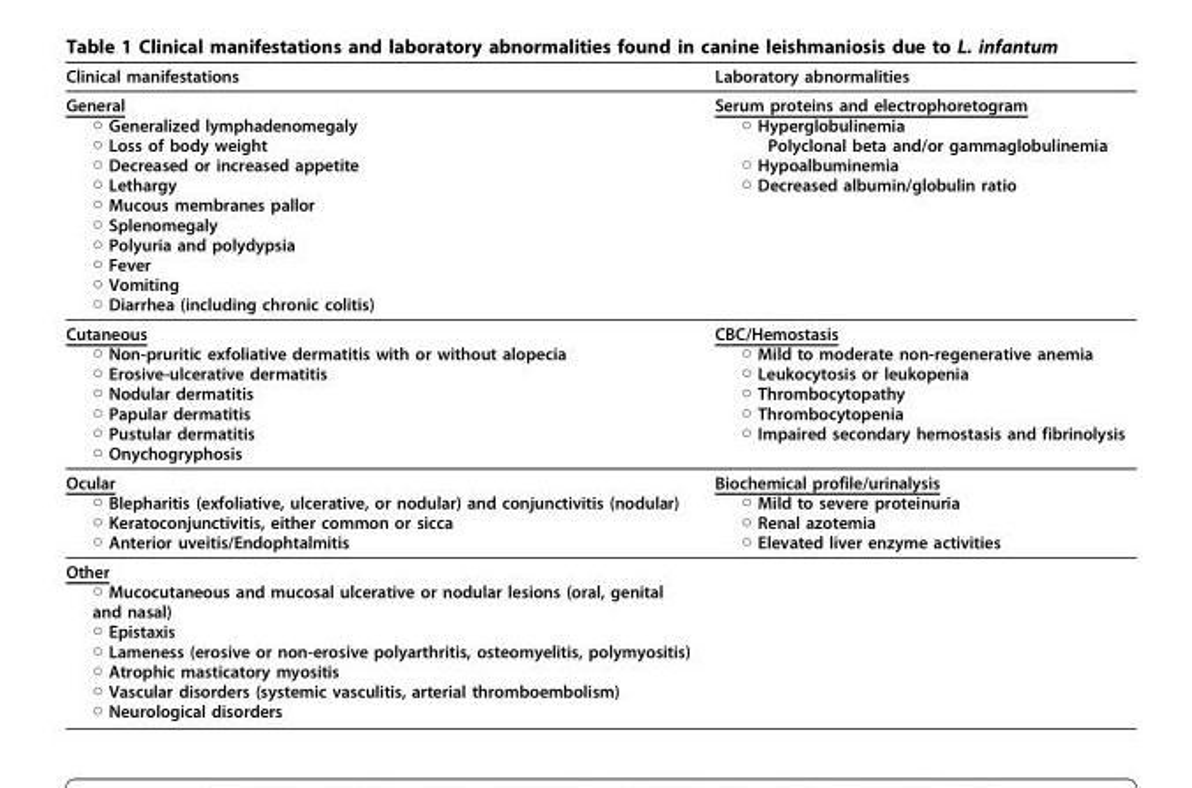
<table><thead><tr><td>Clinical manifestations</td><td>Laboratory abnormalities</td></tr></thead><tbody><tr><td>General ○ Generalized lymphadenomegaly ○ Loss of body weight ○ Decreased or increased appetite ○ Lethargy ○ Mucous membranes pallor ○ Splenomegaly ○ Polyuria and polydypsia ○ Fever ○ Vomiting ○ Diarrhea (including chronic colitis)</td><td>Serum proteins and electrophoretogram ○ Hyperglobulinemia Polyclonal beta and/or gammaglobulinemia ○ Hypoalbuminemia ○ Decreased albumin/globulin ratio</td></tr><tr><td>Cutaneous ○ Non-pruritic exfoliative dermatitis with or without alopecia ○ Erosive-ulcerative dermatitis ○ Nodular dermatitis ○ Papular dermatitis ○ Pustular dermatitis ○ Onychogryphosis</td><td>CBC/Hemostasis ○ Mild to moderate non-regenerative anemia ○ Leukocytosis or leukopenia ○ Thrombocytopathy ○ Thrombocytopenia ○ Impaired secondary hemostasis and fibrinolysis</td></tr><tr><td>Ocular ○ Blepharitis (exfoliative, ulcerative, or nodular) and conjunctivitis (nodular) ○ Keratoconjunctivitis, either common or sicca ○ Anterior uveitis/Endophtalmitis</td><td>Biochemical profile/urinalysis ○ Mild to severe proteinuria ○ Renal azotemia ○ Elevated liver enzyme activities</td></tr><tr><td>Other ○ Mucocutaneous and mucosal ulcerative or nodular lesions (oral, genital and nasal) ○ Epistaxis ○ Lameness (erosive or non-erosive polyarthritis, osteomyelitis, polymyositis) ○ Atrophic masticatory myositis ○ Vascular disorders (systemic vasculitis, arterial thromboembolism) ○ Neurological disorders</td><td></td></tr></tbody></table>